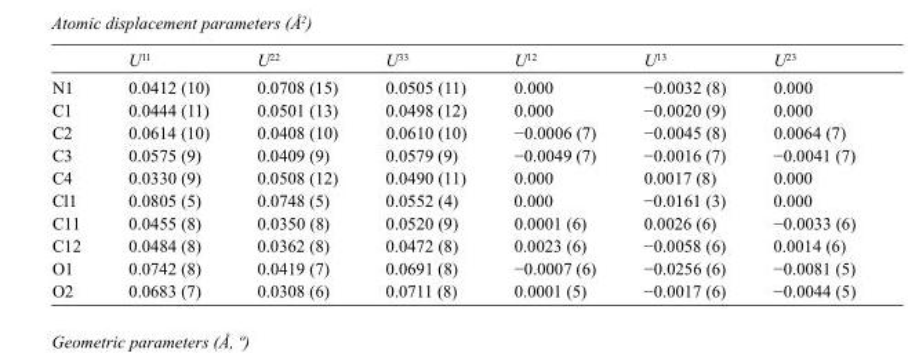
<table><thead><tr><td></td><td>U<sup>11</sup></td><td>U<sup>22</sup></td><td>U<sup>33</sup></td><td>U<sup>12</sup></td><td>U<sup>13</sup></td><td>U<sup>23</sup></td></tr></thead><tbody><tr><td>N1</td><td>0.0412 (10)</td><td>0.0708 (15)</td><td>0.0505 (11)</td><td>0.000</td><td>−0.0032 (8)</td><td>0.000</td></tr><tr><td>C1</td><td>0.0444 (11)</td><td>0.0501 (13)</td><td>0.0498 (12)</td><td>0.000</td><td>−0.0020 (9)</td><td>0.000</td></tr><tr><td>C2</td><td>0.0614 (10)</td><td>0.0408 (10)</td><td>0.0610 (10)</td><td>−0.0006 (7)</td><td>−0.0045 (8)</td><td>0.0064 (7)</td></tr><tr><td>C3</td><td>0.0575 (9)</td><td>0.0409 (9)</td><td>0.0579 (9)</td><td>−0.0049 (7)</td><td>−0.0016 (7)</td><td>−0.0041 (7)</td></tr><tr><td>C4</td><td>0.0330 (9)</td><td>0.0508 (12)</td><td>0.0490 (11)</td><td>0.000</td><td>0.0017 (8)</td><td>0.000</td></tr><tr><td>Cl1</td><td>0.0805 (5)</td><td>0.0748 (5)</td><td>0.0552 (4)</td><td>0.000</td><td>−0.0161 (3)</td><td>0.000</td></tr><tr><td>C11</td><td>0.0455 (8)</td><td>0.0350 (8)</td><td>0.0520 (9)</td><td>0.0001 (6)</td><td>0.0026 (6)</td><td>−0.0033 (6)</td></tr><tr><td>C12</td><td>0.0484 (8)</td><td>0.0362 (8)</td><td>0.0472 (8)</td><td>0.0023 (6)</td><td>−0.0058 (6)</td><td>0.0014 (6)</td></tr><tr><td>O1</td><td>0.0742 (8)</td><td>0.0419 (7)</td><td>0.0691 (8)</td><td>−0.0007 (6)</td><td>−0.0256 (6)</td><td>−0.0081 (5)</td></tr><tr><td>O2</td><td>0.0683 (7)</td><td>0.0308 (6)</td><td>0.0711 (8)</td><td>0.0001 (5)</td><td>−0.0017 (6)</td><td>−0.0044 (5)</td></tr></tbody></table>